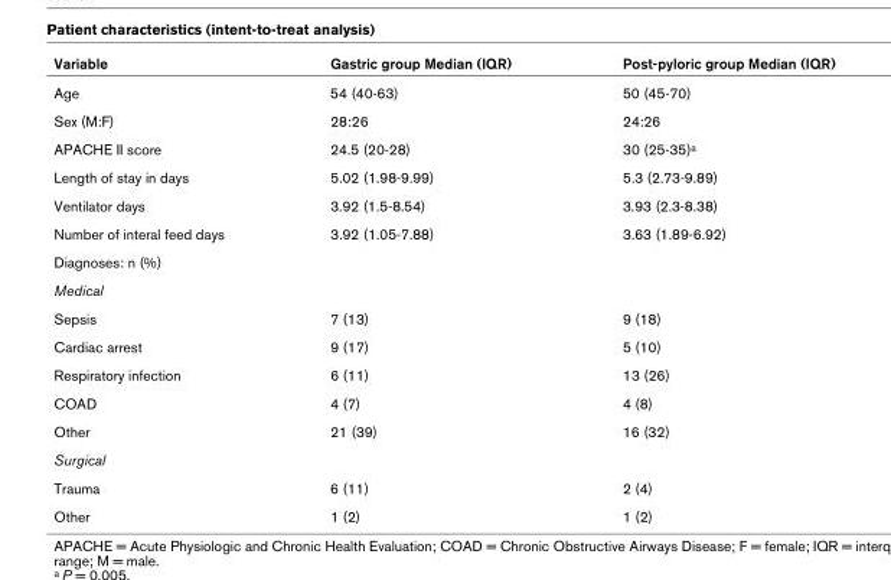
<table><thead><tr><td>Variable</td><td>Gastric group Median (IQR)</td><td>Post-pyloric group Median (IQR)</td></tr></thead><tbody><tr><td>Age</td><td>54 (40-63)</td><td>50 (45-70)</td></tr><tr><td>Sex (M:F)</td><td>28:26</td><td>24:26</td></tr><tr><td>APACHE II score</td><td>24.5 (20-28)</td><td>30 (25-35)<sup>a</sup></td></tr><tr><td>Length of stay in days</td><td>5.02 (1.98-9.99)</td><td>5.3 (2.73-9.89)</td></tr><tr><td>Ventilator days</td><td>3.92 (1.5-8.54)</td><td>3.93 (2.3-8.38)</td></tr><tr><td>Number of interal feed days</td><td>3.92 (1.05-7.88)</td><td>3.63 (1.89-6.92)</td></tr><tr><td colspan="3">Diagnoses: n (%)</td></tr><tr><td colspan="3">Medical</td></tr><tr><td>Sepsis</td><td>7 (13)</td><td>9 (18)</td></tr><tr><td>Cardiac arrest</td><td>9 (17)</td><td>5 (10)</td></tr><tr><td>Respiratory infection</td><td>6 (11)</td><td>13 (26)</td></tr><tr><td>COAD</td><td>4 (7)</td><td>4 (8)</td></tr><tr><td>Other</td><td>21 (39)</td><td>16 (32)</td></tr><tr><td colspan="3">Surgical</td></tr><tr><td>Trauma</td><td>6 (11)</td><td>2 (4)</td></tr><tr><td>Other</td><td>1 (2)</td><td>1 (2)</td></tr></tbody></table>